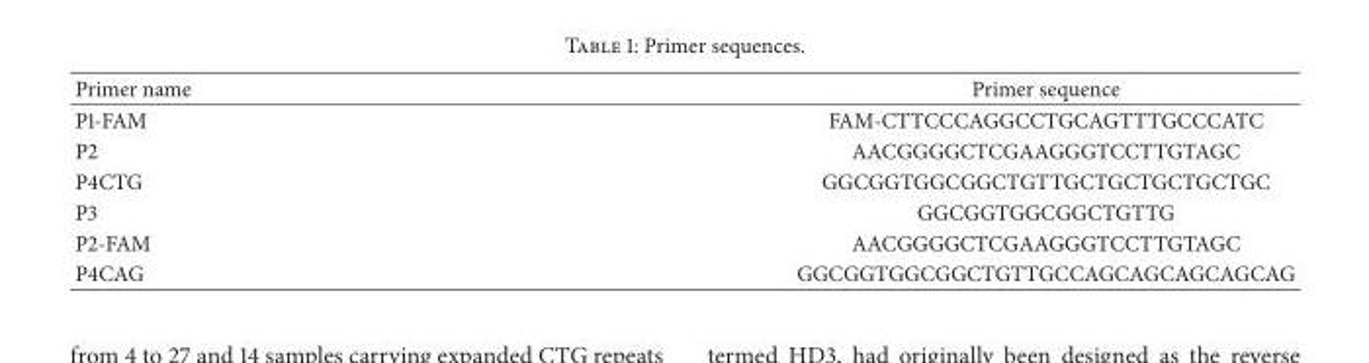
<table><thead><tr><td>Primer name</td><td>Primer sequence</td></tr></thead><tbody><tr><td>P1-FAM</td><td>FAM-CTTCCCAGGCCTGCAGTTTGCCCATC</td></tr><tr><td>P2</td><td>AACGGGGCTCGAAGGGTCCTTGTAGC</td></tr><tr><td>P4CTG</td><td>GGCGGTGGCGGCTGTTGCTGCTGCTGCTGC</td></tr><tr><td>P3</td><td>GGCGGTGGCGGCTGTTG</td></tr><tr><td>P2-FAM</td><td>AACGGGGCTCGAAGGGTCCTTGTAGC</td></tr><tr><td>P4CAG</td><td>GGCGGTGGCGGCTGTTGCCAGCAGCAGCAGCAG</td></tr></tbody></table>